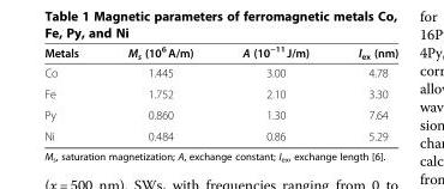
<table><thead><tr><td>Metals</td><td>M<sub>s</sub> (10<sup>6</sup> A/m)</td><td>A (10<sup>−11</sup> J/m)</td><td>l<sub>ex</sub> (nm)</td></tr></thead><tbody><tr><td>Co</td><td>1.445</td><td>3.00</td><td>4.78</td></tr><tr><td>Fe</td><td>1.752</td><td>2.10</td><td>3.30</td></tr><tr><td>Py</td><td>0.860</td><td>1.30</td><td>7.64</td></tr><tr><td>Ni</td><td>0.484</td><td>0.86</td><td>5.29</td></tr></tbody></table>